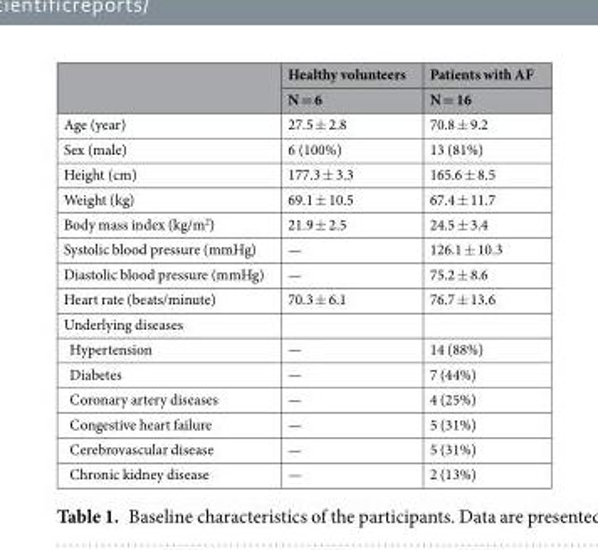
<table><thead><tr><td rowspan="2"></td><td rowspan="2">Healthy volunteers N = 6</td><td rowspan="2">Patients with AF N = 16</td></tr><tr></tr></thead><tbody><tr><td>Age (year)</td><td>27.5 ± 2.8</td><td>70.8 ± 9.2</td></tr><tr><td>Sex (male)</td><td>6 (100%)</td><td>13 (81%)</td></tr><tr><td>Height (cm)</td><td>177.3 ± 3.3</td><td>165.6 ± 8.5</td></tr><tr><td>Weight (kg)</td><td>69.1 ± 10.5</td><td>67.4 ± 11.7</td></tr><tr><td>Body mass index (kg/m<sup>2</sup>)</td><td>21.9 ± 2.5</td><td>24.5 ± 3.4</td></tr><tr><td>Systolic blood pressure (mmHg)</td><td>—</td><td>126.1 ± 10.3</td></tr><tr><td>Diastolic blood pressure (mmHg)</td><td>—</td><td>75.2 ± 8.6</td></tr><tr><td>Heart rate (beats/minute)</td><td>70.3 ± 6.1</td><td>76.7 ± 13.6</td></tr><tr><td colspan="3">Underlying diseases</td></tr><tr><td>Hypertension</td><td>—</td><td>14 (88%)</td></tr><tr><td>Diabetes</td><td>—</td><td>7 (44%)</td></tr><tr><td>Coronary artery diseases</td><td>—</td><td>4 (25%)</td></tr><tr><td>Congestive heart failure</td><td>—</td><td>5 (31%)</td></tr><tr><td>Cerebrovascular disease</td><td>—</td><td>5 (31%)</td></tr><tr><td>Chronic kidney disease</td><td>—</td><td>2 (13%)</td></tr></tbody></table>